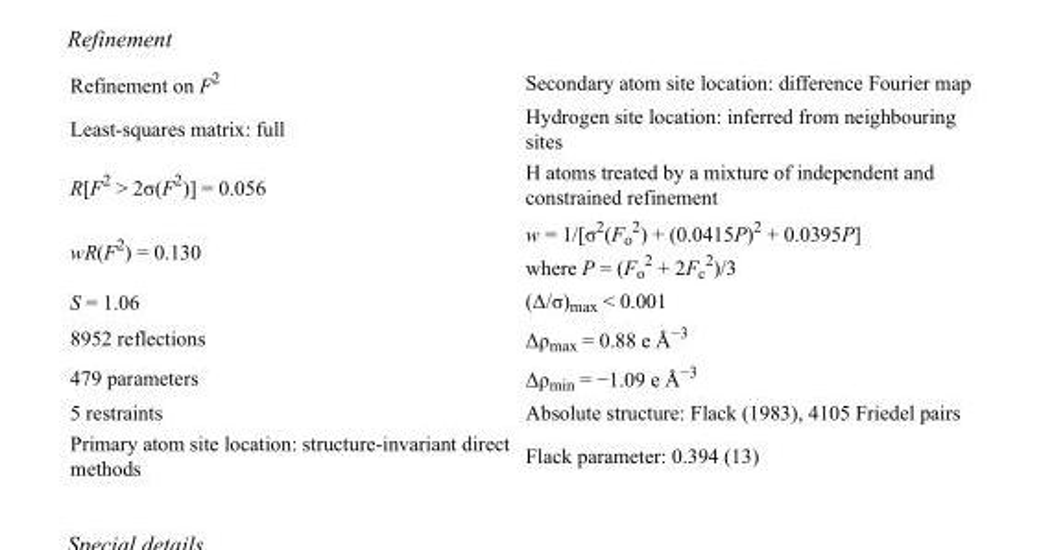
<table><tbody><tr><td>Refinement on F<sup>2</sup></td><td>Secondary atom site location: difference Fourier map</td></tr><tr><td>Least-squares matrix: full</td><td>Hydrogen site location: inferred from neighbouring sites</td></tr><tr><td>R[F<sup>2</sup> &gt; 2σ(F<sup>2</sup>)] = 0.056</td><td>H atoms treated by a mixture of independent and constrained refinement</td></tr><tr><td>wR(F<sup>2</sup>) = 0.130</td><td>w = 1/[σ<sup>2</sup>(F<sub>o</sub> <sup>2</sup>) + (0.0415P)<sup>2</sup> + 0.0395P] where P = (F<sub>o</sub> <sup>2</sup> + 2F<sub>c</sub> <sup>2</sup>)/3</td></tr><tr><td>S = 1.06</td><td>(Δ/σ)<sub>max</sub> &lt; 0.001</td></tr><tr><td>8952 reflections</td><td>Δρ<sub>max</sub> = 0.88 e Å<sup>−3</sup></td></tr><tr><td>479 parameters</td><td>Δρ<sub>min</sub> = −1.09 e Å<sup>−3</sup></td></tr><tr><td>5 restraints</td><td>Absolute structure: Flack (1983), 4105 Friedel pairs</td></tr><tr><td>Primary atom site location: structure-invariant direct methods</td><td>Flack parameter: 0.394 (13)</td></tr></tbody></table>